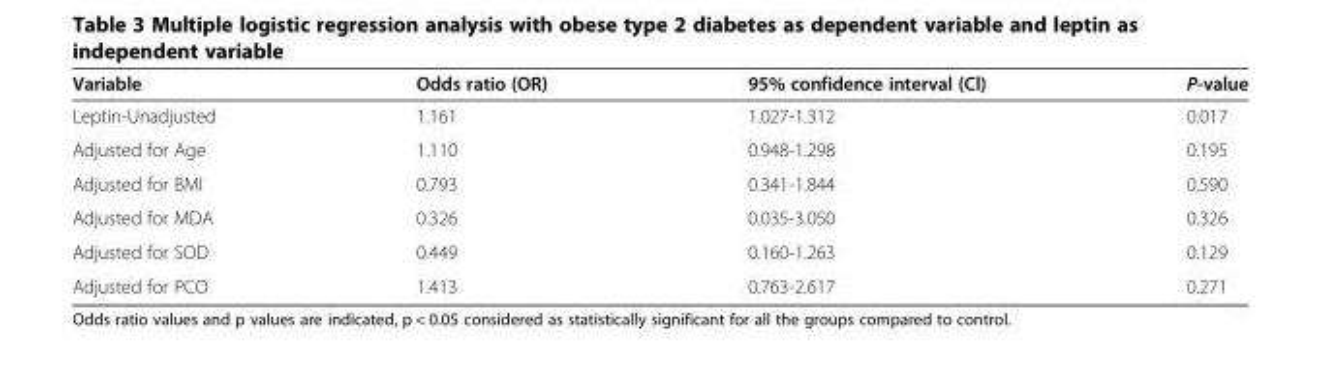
<table><thead><tr><td>Variable</td><td>Odds ratio (OR)</td><td>95% confidence interval (Cl)</td><td>P-value</td></tr></thead><tbody><tr><td>Leptin-Unadjusted</td><td>1.161</td><td>1.027-1.312</td><td>0.017</td></tr><tr><td>Adjusted for Age</td><td>1.110</td><td>0.948-1.298</td><td>0.195</td></tr><tr><td>Adjusted for BMI</td><td>0.793</td><td>0.341-1.844</td><td>0.590</td></tr><tr><td>Adjusted for MDA</td><td>0.326</td><td>0.035-3.050</td><td>0.326</td></tr><tr><td>Adjusted for SOD</td><td>0.449</td><td>0.160-1.263</td><td>0.129</td></tr><tr><td>Adjusted for PCO</td><td>1.413</td><td>0.763-2.617</td><td>0.271</td></tr></tbody></table>